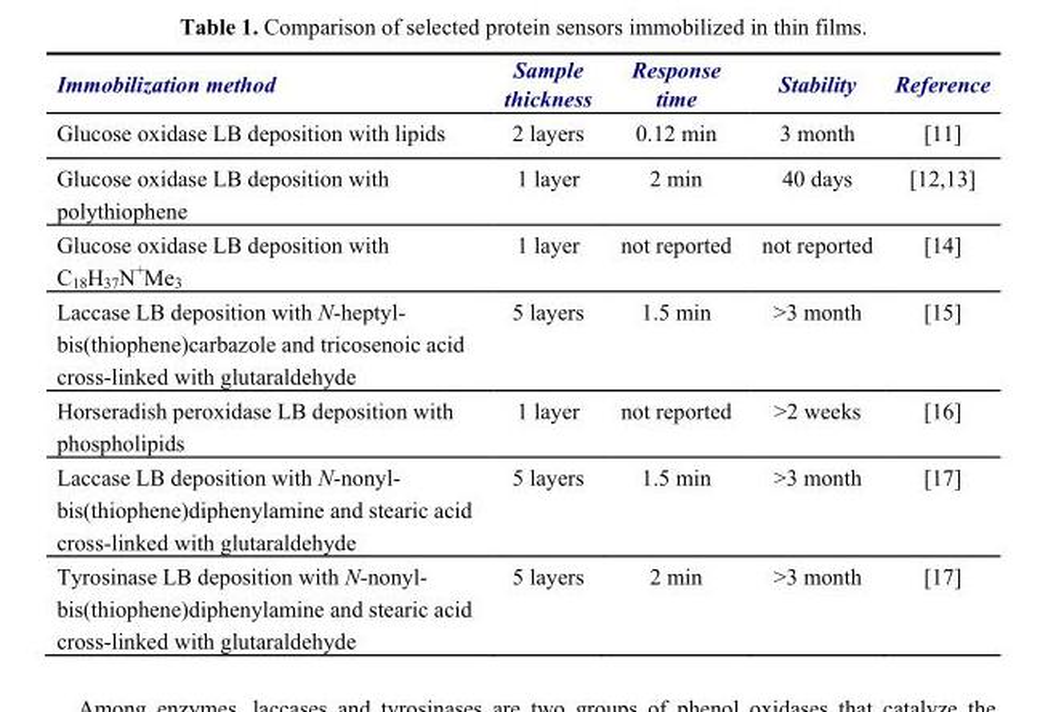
<table><thead><tr><td>Immobilization method</td><td>Sample thickness</td><td>Response time</td><td>Stability</td><td>Reference</td></tr></thead><tbody><tr><td>Glucose oxidase LB deposition with lipids</td><td>2 layers</td><td>0.12 min</td><td>3 month</td><td>[11]</td></tr><tr><td>Glucose oxidase LB deposition with polythiophene</td><td>1 layer</td><td>2 min</td><td>40 days</td><td>[12,13]</td></tr><tr><td>Glucose oxidase LB deposition with C<sub>18</sub>H<sub>37</sub>N<sup>+</sup>Me<sub>3</sub></td><td>1 layer</td><td>not reported</td><td>not reported</td><td>[14]</td></tr><tr><td>Laccase LB deposition with N-heptyl- bis(thiophene)carbazole and tricosenoic acid cross-linked with glutaraldehyde</td><td>5 layers</td><td>1.5 min</td><td>&gt;3 month</td><td>[15]</td></tr><tr><td>Horseradish peroxidase LB deposition with phospholipids</td><td>1 layer</td><td>not reported</td><td>&gt;2 weeks</td><td>[16]</td></tr><tr><td>Laccase LB deposition with N-nonyl- bis(thiophene)diphenylamine and stearic acid cross-linked with glutaraldehyde</td><td>5 layers</td><td>1.5 min</td><td>&gt;3 month</td><td>[17]</td></tr><tr><td>Tyrosinase LB deposition with N-nonyl- bis(thiophene)diphenylamine and stearic acid cross-linked with glutaraldehyde</td><td>5 layers</td><td>2 min</td><td>&gt;3 month</td><td>[17]</td></tr></tbody></table>